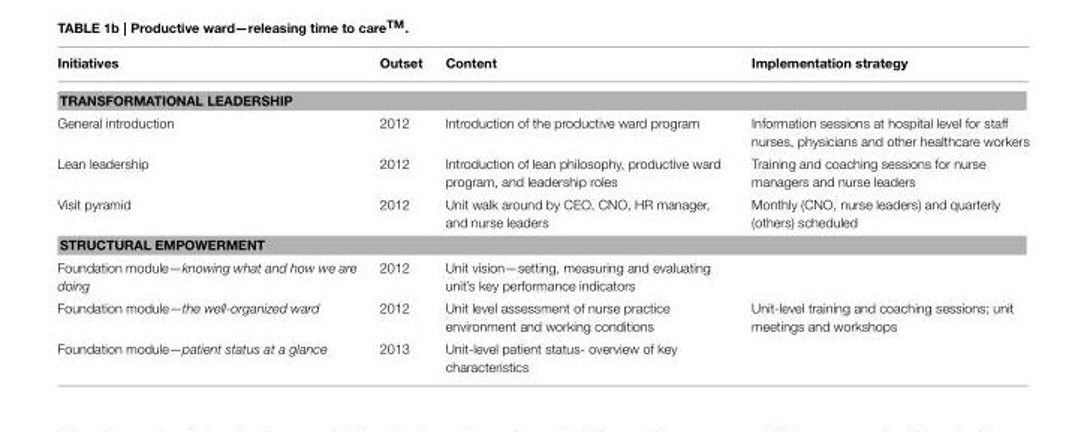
<table><thead><tr><td>Initiatives</td><td>Outset</td><td>Content</td><td>Implementation strategy</td></tr></thead><tbody><tr><td colspan="4">TRANSFORMATIONAL LEADERSHIP</td></tr><tr><td>General introduction</td><td>2012</td><td>Introduction of the productive ward program</td><td>Information sessions at hospital level for staff nurses, physicians and other healthcare workers</td></tr><tr><td>Lean leadership</td><td>2012</td><td>Introduction of lean philosophy, productive ward program, and leadership roles</td><td>Training and coaching sessions for nurse managers and nurse leaders</td></tr><tr><td>Visit pyramid</td><td>2012</td><td>Unit walk around by CEO, CNO, HR manager, and nurse leaders</td><td>Monthly (CNO, nurse leaders) and quarterly (others) scheduled</td></tr><tr><td colspan="4">STRUCTURAL EMPOWERMENT</td></tr><tr><td>Foundation module—knowing what and how we are doing</td><td>2012</td><td>Unit vision—setting, measuring and evaluating unit’s key performance indicators</td><td></td></tr><tr><td>Foundation module—the well-organized ward</td><td>2012</td><td>Unit level assessment of nurse practice environment and working conditions</td><td>Unit-level training and coaching sessions; unit meetings and workshops</td></tr><tr><td>Foundation module—patient status at a glance</td><td>2013</td><td>Unit-level patient status- overview of key characteristics</td><td></td></tr></tbody></table>